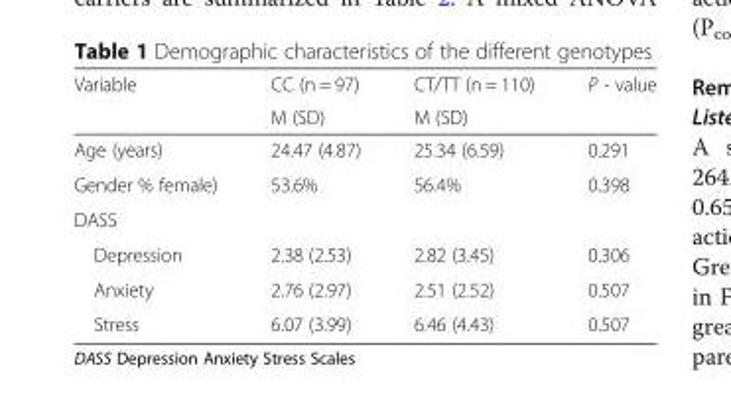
<table><thead><tr><td rowspan="2">Variable</td><td rowspan="2">CC (n = 97) M (SD)</td><td rowspan="2">CT/TT (n = 110) M (SD)</td><td rowspan="2">P - value</td></tr><tr></tr></thead><tbody><tr><td>Age (years)</td><td>24.47 (4.87)</td><td>25.34 (6.59)</td><td>0.291</td></tr><tr><td>Gender % female)</td><td>53.6%</td><td>56.4%</td><td>0.398</td></tr><tr><td colspan="4">DASS</td></tr><tr><td>Depression</td><td>2.38 (2.53)</td><td>2.82 (3.45)</td><td>0.306</td></tr><tr><td>Anxiety</td><td>2.76 (2.97)</td><td>2.51 (2.52)</td><td>0.507</td></tr><tr><td>Stress</td><td>6.07 (3.99)</td><td>6.46 (4.43)</td><td>0.507</td></tr></tbody></table>